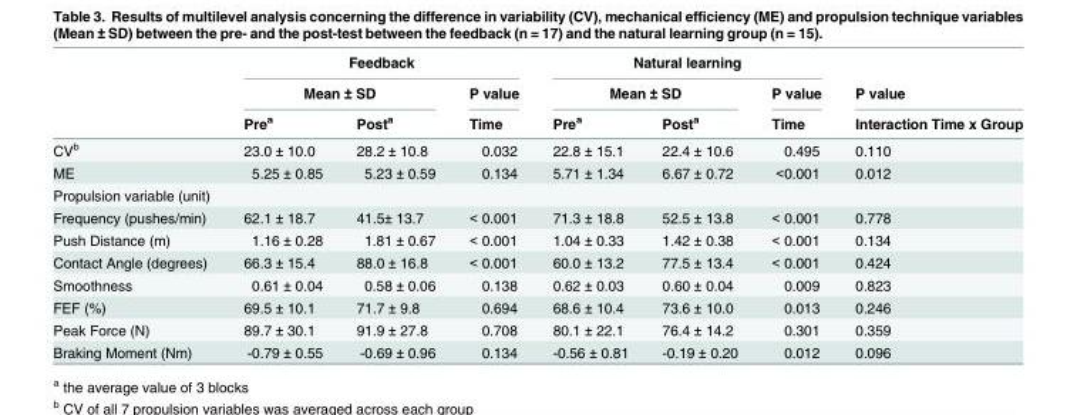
<table><thead><tr><td rowspan="3"></td><td colspan="3">Feedback</td><td colspan="3">Natural learning</td><td rowspan="3">P value Interaction Time x Group</td></tr><tr><td colspan="2">Mean ± SD</td><td rowspan="2">P value Time</td><td colspan="2">Mean ± SD</td><td rowspan="2">P value Time</td></tr><tr><td>Pre<sup>a</sup></td><td>Post<sup>a</sup></td><td>Pre<sup>a</sup></td><td>Post<sup>a</sup></td></tr></thead><tbody><tr><td>CV<sup>b</sup></td><td>23.0 ± 10.0</td><td>28.2 ± 10.8</td><td>0.032</td><td>22.8 ± 15.1</td><td>22.4 ± 10.6</td><td>0.495</td><td>0.110</td></tr><tr><td>ME</td><td>5.25 ± 0.85</td><td>5.23 ± 0.59</td><td>0.134</td><td>5.71 ± 1.34</td><td>6.67 ± 0.72</td><td>&lt;0.001</td><td>0.012</td></tr><tr><td colspan="8">Propulsion variable (unit)</td></tr><tr><td>Frequency (pushes/min)</td><td>62.1 ± 18.7</td><td>41.5± 13.7</td><td>&lt; 0.001</td><td>71.3 ± 18.8</td><td>52.5 ± 13.8</td><td>&lt; 0.001</td><td>0.778</td></tr><tr><td>Push Distance (m)</td><td>1.16 ± 0.28</td><td>1.81 ± 0.67</td><td>&lt; 0.001</td><td>1.04 ± 0.33</td><td>1.42 ± 0.38</td><td>&lt; 0.001</td><td>0.134</td></tr><tr><td>Contact Angle (degrees)</td><td>66.3 ± 15.4</td><td>88.0 ± 16.8</td><td>&lt; 0.001</td><td>60.0 ± 13.2</td><td>77.5 ± 13.4</td><td>&lt; 0.001</td><td>0.424</td></tr><tr><td>Smoothness</td><td>0.61 ± 0.04</td><td>0.58 ± 0.06</td><td>0.138</td><td>0.62 ± 0.03</td><td>0.60 ± 0.04</td><td>0.009</td><td>0.823</td></tr><tr><td>FEF (%)</td><td>69.5 ± 10.1</td><td>71.7 ± 9.8</td><td>0.694</td><td>68.6 ± 10.4</td><td>73.6 ± 10.0</td><td>0.013</td><td>0.246</td></tr><tr><td>Peak Force (N)</td><td>89.7 ± 30.1</td><td>91.9 ± 27.8</td><td>0.708</td><td>80.1 ± 22.1</td><td>76.4 ± 14.2</td><td>0.301</td><td>0.359</td></tr><tr><td>Braking Moment (Nm)</td><td>-0.79 ± 0.55</td><td>-0.69 ± 0.96</td><td>0.134</td><td>-0.56 ± 0.81</td><td>-0.19 ± 0.20</td><td>0.012</td><td>0.096</td></tr></tbody></table>